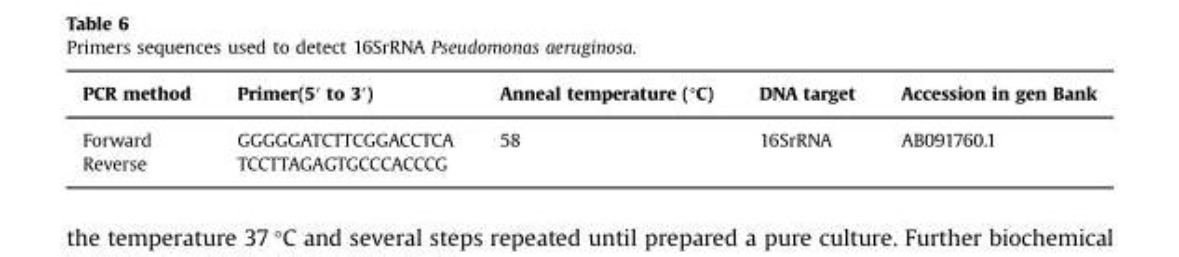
<table><thead><tr><td>PCR method</td><td>Primer(5′ to 3′)</td><td>Anneal temperature (°C)</td><td>DNA target</td><td>Accession in gen Bank</td></tr></thead><tbody><tr><td>Forward</td><td>GGGGGATCTTCGGACCTCA</td><td>58</td><td>16SrRNA</td><td>AB091760.1</td></tr><tr><td>Reverse</td><td>TCCTTAGAGTGCCCACCCG</td><td></td><td></td><td></td></tr></tbody></table>